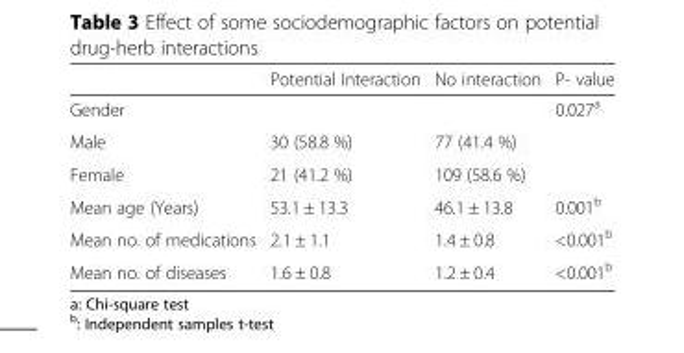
<table><thead><tr><td></td><td>Potential Interaction</td><td>No interaction</td><td>P- value</td></tr></thead><tbody><tr><td colspan="3">Gender</td><td rowspan="3">0.027<sup>a</sup></td></tr><tr><td>Male</td><td>30 (58.8 %)</td><td>77 (41.4 %)</td></tr><tr><td>Female</td><td>21 (41.2 %)</td><td>109 (58.6 %)</td></tr><tr><td>Mean age (Years)</td><td>53.1 ± 13.3</td><td>46.1 ± 13.8</td><td>0.001<sup>b</sup></td></tr><tr><td>Mean no. of medications</td><td>2.1 ± 1.1</td><td>1.4 ± 0.8</td><td>&lt;0.001<sup>b</sup></td></tr><tr><td>Mean no. of diseases</td><td>1.6 ± 0.8</td><td>1.2 ± 0.4</td><td>&lt;0.001<sup>b</sup></td></tr></tbody></table>